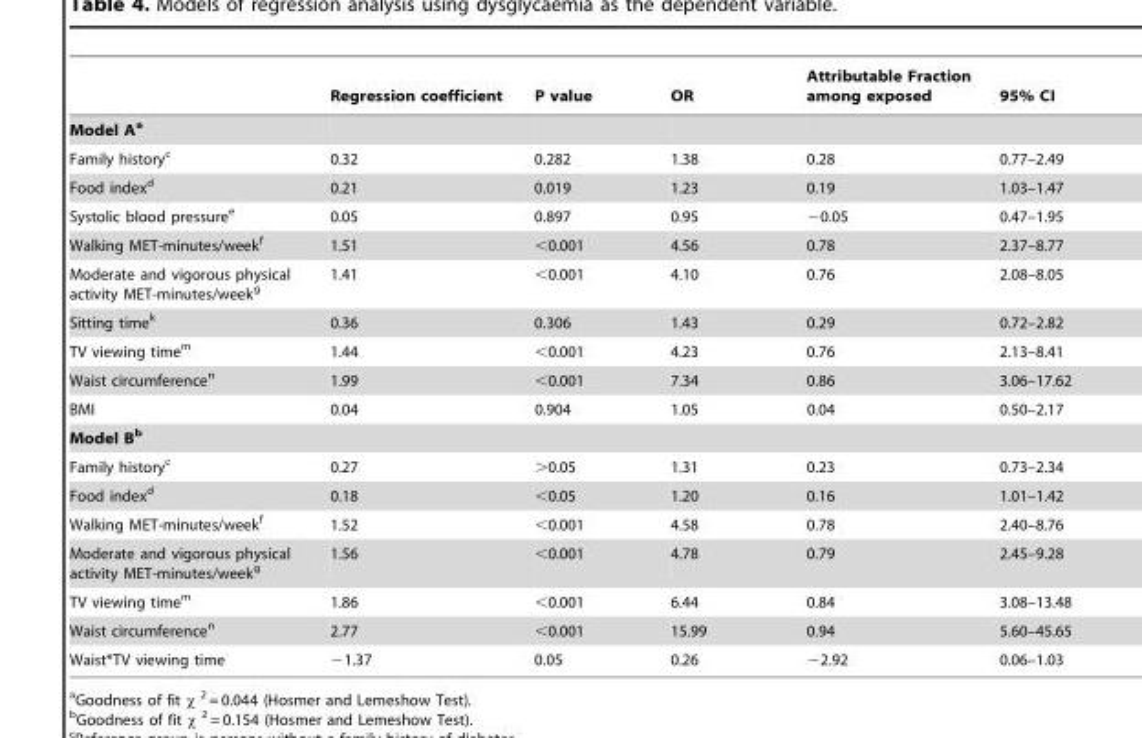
<table><thead><tr><td></td><td>Regression coefficient</td><td>P value</td><td>OR</td><td>Attributable Fraction among exposed</td><td>95% CI</td></tr></thead><tbody><tr><td colspan="6">Model Aa</td></tr><tr><td>Family history<sup>c</sup></td><td>0.32</td><td>0.282</td><td>1.38</td><td>0.28</td><td>0.77–2.49</td></tr><tr><td>Food index<sup>d</sup></td><td>0.21</td><td>0.019</td><td>1.23</td><td>0.19</td><td>1.03–1.47</td></tr><tr><td>Systolic blood pressure<sup>e</sup></td><td>0.05</td><td>0.897</td><td>0.95</td><td>−0.05</td><td>0.47–1.95</td></tr><tr><td>Walking MET-minutes/week<sup>f</sup></td><td>1.51</td><td>&lt;0.001</td><td>4.56</td><td>0.78</td><td>2.37–8.77</td></tr><tr><td>Moderate and vigorous physical activity MET-minutes/week<sup>g</sup></td><td>1.41</td><td>&lt;0.001</td><td>4.10</td><td>0.76</td><td>2.08–8.05</td></tr><tr><td>Sitting time<sup>k</sup></td><td>0.36</td><td>0.306</td><td>1.43</td><td>0.29</td><td>0.72–2.82</td></tr><tr><td>TV viewing time<sup>m</sup></td><td>1.44</td><td>&lt;0.001</td><td>4.23</td><td>0.76</td><td>2.13–8.41</td></tr><tr><td>Waist circumference<sup>n</sup></td><td>1.99</td><td>&lt;0.001</td><td>7.34</td><td>0.86</td><td>3.06–17.62</td></tr><tr><td>BMI</td><td>0.04</td><td>0.904</td><td>1.05</td><td>0.04</td><td>0.50–2.17</td></tr><tr><td colspan="6">Model Bb</td></tr><tr><td>Family history<sup>c</sup></td><td>0.27</td><td>&gt;0.05</td><td>1.31</td><td>0.23</td><td>0.73–2.34</td></tr><tr><td>Food index<sup>d</sup></td><td>0.18</td><td>&lt;0.05</td><td>1.20</td><td>0.16</td><td>1.01–1.42</td></tr><tr><td>Walking MET-minutes/week<sup>f</sup></td><td>1.52</td><td>&lt;0.001</td><td>4.58</td><td>0.78</td><td>2.40–8.76</td></tr><tr><td>Moderate and vigorous physical activity MET-minutes/week<sup>g</sup></td><td>1.56</td><td>&lt;0.001</td><td>4.78</td><td>0.79</td><td>2.45–9.28</td></tr><tr><td>TV viewing time<sup>m</sup></td><td>1.86</td><td>&lt;0.001</td><td>6.44</td><td>0.84</td><td>3.08–13.48</td></tr><tr><td>Waist circumference<sup>n</sup></td><td>2.77</td><td>&lt;0.001</td><td>15.99</td><td>0.94</td><td>5.60–45.65</td></tr><tr><td>Waist*TV viewing time</td><td>−1.37</td><td>0.05</td><td>0.26</td><td>−2.92</td><td>0.06–1.03</td></tr></tbody></table>